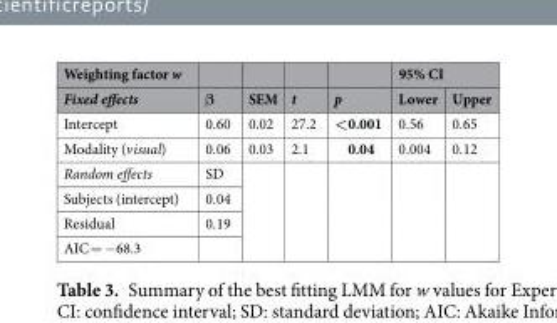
<table><thead><tr><td rowspan="2">Weighting factor w Fixed effects</td><td rowspan="2">β</td><td rowspan="2">SEM</td><td rowspan="2">t</td><td rowspan="2">p</td><td colspan="2">95% CI</td></tr><tr><td>Lower</td><td>Upper</td></tr></thead><tbody><tr><td>Intercept</td><td>0.60</td><td>0.02</td><td>27.2</td><td>&lt;0.001</td><td>0.56</td><td>0.65</td></tr><tr><td>Modality (visual)</td><td>0.06</td><td>0.03</td><td>2.1</td><td>0.04</td><td>0.004</td><td>0.12</td></tr><tr><td>Random effects</td><td>SD</td><td rowspan="4"></td><td rowspan="4"></td><td rowspan="4"></td><td rowspan="4"></td><td rowspan="4"></td></tr><tr><td>Subjects (intercept)</td><td>0.04</td></tr><tr><td>Residual</td><td>0.19</td></tr><tr><td>AIC = −68.3</td><td></td></tr></tbody></table>